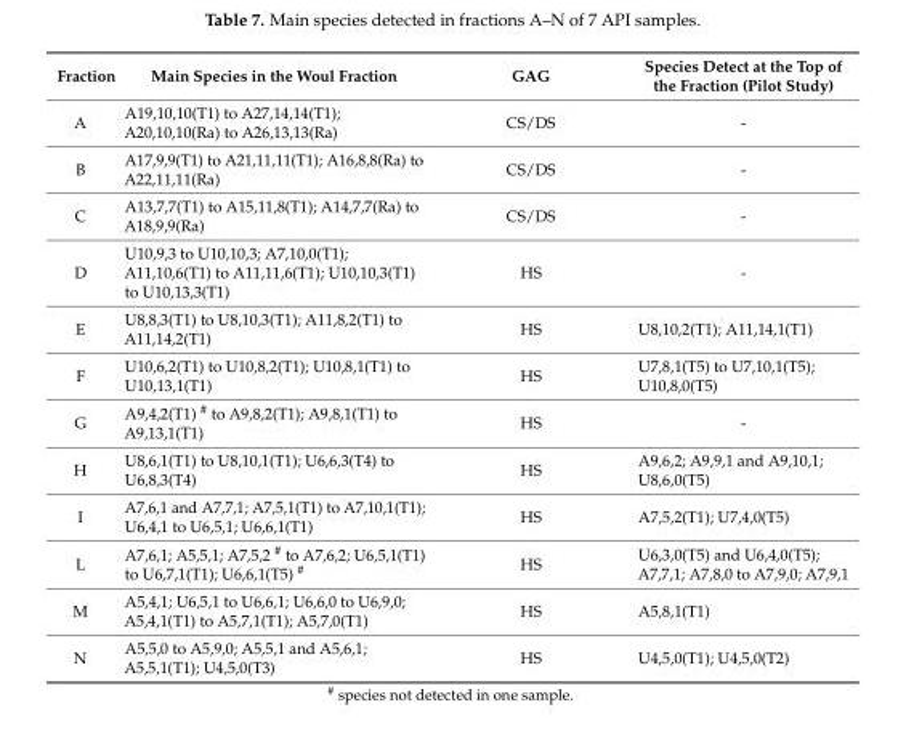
<table><thead><tr><td>Fraction</td><td>Main Species in the Woul Fraction</td><td>GAG</td><td>Species Detect at the Top of the Fraction (Pilot Study)</td></tr></thead><tbody><tr><td>A</td><td>A19,10,10(T1) to A27,14,14(T1); A20,10,10(Ra) to A26,13,13(Ra)</td><td>CS/DS</td><td>-</td></tr><tr><td>B</td><td>A17,9,9(T1) to A21,11,11(T1); A16,8,8(Ra) to A22,11,11(Ra)</td><td>CS/DS</td><td>-</td></tr><tr><td>C</td><td>A13,7,7(T1) to A15,11,8(T1); A14,7,7(Ra) to A18,9,9(Ra)</td><td>CS/DS</td><td>-</td></tr><tr><td>D</td><td>U10,9,3 to U10,10,3; A7,10,0(T1); A11,10,6(T1) to A11,11,6(T1); U10,10,3(T1) to U10,13,3(T1)</td><td>HS</td><td>-</td></tr><tr><td>E</td><td>U8,8,3(T1) to U8,10,3(T1); A11,8,2(T1) to A11,14,2(T1)</td><td>HS</td><td>U8,10,2(T1); A11,14,1(T1)</td></tr><tr><td>F</td><td>U10,6,2(T1) to U10,8,2(T1); U10,8,1(T1) to U10,13,1(T1)</td><td>HS</td><td>U7,8,1(T5) to U7,10,1(T5); U10,8,0(T5)</td></tr><tr><td>G</td><td>A9,4,2(T1) <sup>#</sup> to A9,8,2(T1); A9,8,1(T1) to A9,13,1(T1)</td><td>HS</td><td>-</td></tr><tr><td>H</td><td>U8,6,1(T1) to U8,10,1(T1); U6,6,3(T4) to U6,8,3(T4)</td><td>HS</td><td>A9,6,2; A9,9,1 and A9,10,1; U8,6,0(T5)</td></tr><tr><td>I</td><td>A7,6,1 and A7,7,1; A7,5,1(T1) to A7,10,1(T1); U6,4,1 to U6,5,1; U6,6,1(T1)</td><td>HS</td><td>A7,5,2(T1); U7,4,0(T5)</td></tr><tr><td>L</td><td>A7,6,1; A5,5,1; A7,5,2 <sup>#</sup> to A7,6,2; U6,5,1(T1) to U6,7,1(T1); U6,6,1(T5) <sup>#</sup></td><td>HS</td><td>U6,3,0(T5) and U6,4,0(T5); A7,7,1; A7,8,0 to A7,9,0; A7,9,1</td></tr><tr><td>M</td><td>A5,4,1; U6,5,1 to U6,6,1; U6,6,0 to U6,9,0; A5,4,1(T1) to A5,7,1(T1); A5,7,0(T1)</td><td>HS</td><td>A5,8,1(T1)</td></tr><tr><td>N</td><td>A5,5,0 to A5,9,0; A5,5,1 and A5,6,1; A5,5,1(T1); U4,5,0(T3)</td><td>HS</td><td>U4,5,0(T1); U4,5,0(T2)</td></tr></tbody></table>